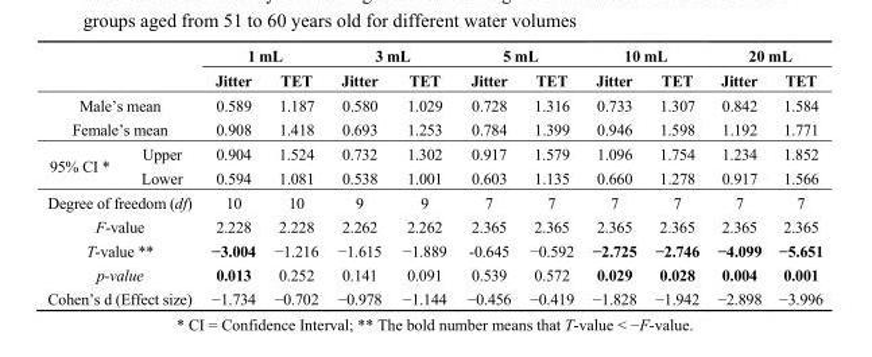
<table><thead><tr><td rowspan="2"></td><td rowspan="2"></td><td colspan="2">1 mL</td><td colspan="2">3 mL</td><td colspan="2">5 mL</td><td colspan="2">10 mL</td><td colspan="2">20 mL</td></tr><tr><td>Jitter</td><td>TET</td><td>Jitter</td><td>TET</td><td>Jitter</td><td>TET</td><td>Jitter</td><td>TET</td><td>Jitter</td><td>TET</td></tr></thead><tbody><tr><td colspan="2">Male’s mean</td><td>0.589</td><td>1.187</td><td>0.580</td><td>1.029</td><td>0.728</td><td>1.316</td><td>0.733</td><td>1.307</td><td>0.842</td><td>1.584</td></tr><tr><td colspan="2">Female’s mean</td><td>0.908</td><td>1.418</td><td>0.693</td><td>1.253</td><td>0.784</td><td>1.399</td><td>0.946</td><td>1.598</td><td>1.192</td><td>1.771</td></tr><tr><td rowspan="2">95% CI *</td><td>Upper</td><td>0.904</td><td>1.524</td><td>0.732</td><td>1.302</td><td>0.917</td><td>1.579</td><td>1.096</td><td>1.754</td><td>1.234</td><td>1.852</td></tr><tr><td>Lower</td><td>0.594</td><td>1.081</td><td>0.538</td><td>1.001</td><td>0.603</td><td>1.135</td><td>0.660</td><td>1.278</td><td>0.917</td><td>1.566</td></tr><tr><td colspan="2">Degree of freedom (df)</td><td>10</td><td>10</td><td>9</td><td>9</td><td>7</td><td>7</td><td>7</td><td>7</td><td>7</td><td>7</td></tr><tr><td colspan="2">F-value</td><td>2.228</td><td>2.228</td><td>2.262</td><td>2.262</td><td>2.365</td><td>2.365</td><td>2.365</td><td>2.365</td><td>2.365</td><td>2.365</td></tr><tr><td colspan="2">T-value **</td><td>−3.004</td><td>−1.216</td><td>−1.615</td><td>−1.889</td><td>-0.645</td><td>−0.592</td><td>−2.725</td><td>−2.746</td><td>−4.099</td><td>−5.651</td></tr><tr><td colspan="2">p-value</td><td>0.013</td><td>0.252</td><td>0.141</td><td>0.091</td><td>0.539</td><td>0.572</td><td>0.029</td><td>0.028</td><td>0.004</td><td>0.001</td></tr><tr><td colspan="2">Cohen’s d (Effect size)</td><td>−1.734</td><td>−0.702</td><td>−0.978</td><td>−1.144</td><td>−0.456</td><td>−0.419</td><td>−1.828</td><td>−1.942</td><td>−2.898</td><td>−3.996</td></tr></tbody></table>